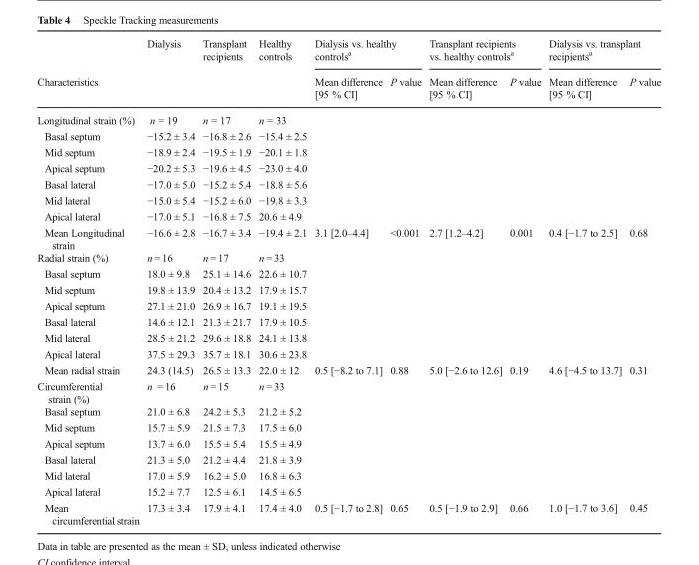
<table><thead><tr><td rowspan="2">Characteristics</td><td rowspan="2">Dialysis</td><td rowspan="2">Transplant recipients</td><td rowspan="2">Healthy controls</td><td colspan="2">Dialysis vs. healthy controls<sup>a</sup></td><td colspan="2">Transplant recipients vs. healthy controls<sup>a</sup></td><td colspan="2">Dialysis vs. transplant recipients<sup>a</sup></td></tr><tr><td>Mean difference [95 % CI]</td><td>P value</td><td>Mean difference [95 % CI]</td><td>P value</td><td>Mean difference [95 % CI]</td><td>P value</td></tr></thead><tbody><tr><td>Longitudinal strain (%)</td><td>n = 19</td><td>n = 17</td><td>n = 33</td><td colspan="6"></td></tr><tr><td>Basal septum</td><td>−15.2 ± 3.4</td><td>−16.8 ± 2.6</td><td>−15.4 ± 2.5</td><td></td><td></td><td></td><td></td><td></td><td></td></tr><tr><td>Mid septum</td><td>−18.9 ± 2.4</td><td>−19.5 ± 1.9</td><td>−20.1 ± 1.8</td><td></td><td></td><td></td><td></td><td></td><td></td></tr><tr><td>Apical septum</td><td>−20.2 ± 5.3</td><td>−19.6 ± 4.5</td><td>−23.0 ± 4.0</td><td></td><td></td><td></td><td></td><td></td><td></td></tr><tr><td>Basal lateral</td><td>−17.0 ± 5.0</td><td>−15.2 ± 5.4</td><td>−18.8 ± 5.6</td><td></td><td></td><td></td><td></td><td></td><td></td></tr><tr><td>Mid lateral</td><td>−15.0 ± 5.4</td><td>−15.2 ± 6.0</td><td>−19.8 ± 3.3</td><td></td><td></td><td></td><td></td><td></td><td></td></tr><tr><td>Apical lateral</td><td>−17.0 ± 5.1</td><td>−16.8 ± 7.5</td><td>20.6 ± 4.9</td><td></td><td></td><td></td><td></td><td></td><td></td></tr><tr><td>Mean Longitudinal strain</td><td>−16.6 ± 2.8</td><td>−16.7 ± 3.4</td><td>−19.4 ± 2.1</td><td>3.1 [2.0–4.4]</td><td>&lt;0.001</td><td>2.7 [1.2–4.2]</td><td>0.001</td><td>0.4 [−1.7 to 2.5]</td><td>0.68</td></tr><tr><td>Radial strain (%)</td><td>n = 16</td><td>n = 17</td><td>n = 33</td><td></td><td></td><td></td><td></td><td></td><td></td></tr><tr><td>Basal septum</td><td>18.0 ± 9.8</td><td>25.1 ± 14.6</td><td>22.6 ± 10.7</td><td></td><td></td><td></td><td></td><td></td><td></td></tr><tr><td>Mid septum</td><td>19.8 ± 13.9</td><td>20.4 ± 13.2</td><td>17.9 ± 15.7</td><td></td><td></td><td></td><td></td><td></td><td></td></tr><tr><td>Apical septum</td><td>27.1 ± 21.0</td><td>26.9 ± 16.7</td><td>19.1 ± 19.5</td><td></td><td></td><td></td><td></td><td></td><td></td></tr><tr><td>Basal lateral</td><td>14.6 ± 12.1</td><td>21.3 ± 21.7</td><td>17.9 ± 10.5</td><td></td><td></td><td></td><td></td><td></td><td></td></tr><tr><td>Mid lateral</td><td>28.5 ± 21.2</td><td>29.6 ± 18.8</td><td>24.1 ± 13.8</td><td></td><td></td><td></td><td></td><td></td><td></td></tr><tr><td>Apical lateral</td><td>37.5 ± 29.3</td><td>35.7 ± 18.1</td><td>30.6 ± 23.8</td><td></td><td></td><td></td><td></td><td></td><td></td></tr><tr><td>Mean radial strain</td><td>24.3 (14.5)</td><td>26.5 ± 13.3</td><td>22.0 ± 12</td><td>0.5 [−8.2 to 7.1]</td><td>0.88</td><td>5.0 [−2.6 to 12.6]</td><td>0.19</td><td>4.6 [−4.5 to 13.7]</td><td>0.31</td></tr><tr><td>Circumferential strain (%)</td><td>n = 16</td><td>n = 15</td><td>n = 33</td><td></td><td></td><td></td><td></td><td></td><td></td></tr><tr><td>Basal septum</td><td>21.0 ± 6.8</td><td>24.2 ± 5.3</td><td>21.2 ± 5.2</td><td></td><td></td><td></td><td></td><td></td><td></td></tr><tr><td>Mid septum</td><td>15.7 ± 5.9</td><td>21.5 ± 7.3</td><td>17.5 ± 6.0</td><td></td><td></td><td></td><td></td><td></td><td></td></tr><tr><td>Apical septum</td><td>13.7 ± 6.0</td><td>15.5 ± 5.4</td><td>15.5 ± 4.9</td><td></td><td></td><td></td><td></td><td></td><td></td></tr><tr><td>Basal lateral</td><td>21.3 ± 5.0</td><td>21.2 ± 4.4</td><td>21.8 ± 3.9</td><td></td><td></td><td></td><td></td><td></td><td></td></tr><tr><td>Mid lateral</td><td>17.0 ± 5.9</td><td>16.2 ± 5.0</td><td>16.8 ± 6.3</td><td></td><td></td><td></td><td></td><td></td><td></td></tr><tr><td>Apical lateral</td><td>15.2 ± 7.7</td><td>12.5 ± 6.1</td><td>14.5 ± 6.5</td><td></td><td></td><td></td><td></td><td></td><td></td></tr><tr><td>Mean circumferential strain</td><td>17.3 ± 3.4</td><td>17.9 ± 4.1</td><td>17.4 ± 4.0</td><td>0.5 [−1.7 to 2.8]</td><td>0.65</td><td>0.5 [−1.9 to 2.9]</td><td>0.66</td><td>1.0 [−1.7 to 3.6]</td><td>0.45</td></tr></tbody></table>